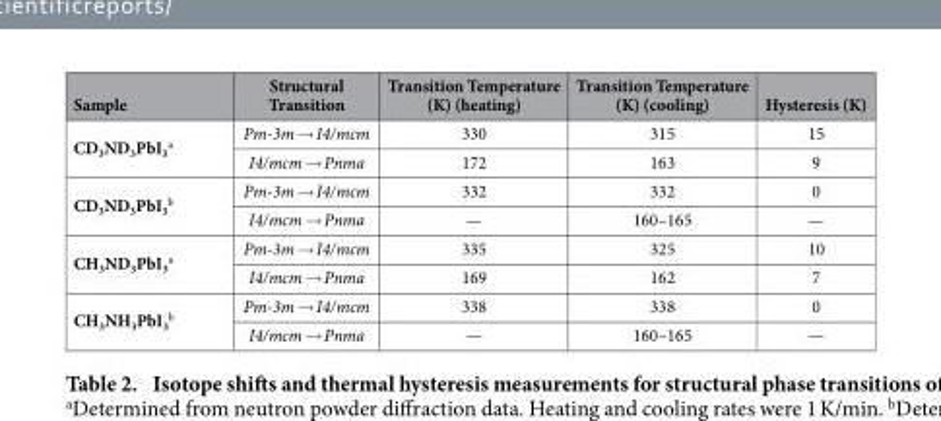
<table><thead><tr><td>Sample</td><td>Structural Transition</td><td>Transition Temperature (K) (heating)</td><td>Transition Temperature (K) (cooling)</td><td>Hysteresis (K)</td></tr></thead><tbody><tr><td rowspan="2">CD<sub>3</sub>ND<sub>3</sub>PbI<sub>3</sub> <sup>a</sup></td><td>Pm-3m → I4/mcm</td><td>330</td><td>315</td><td>15</td></tr><tr><td>I4/mcm → Pnma</td><td>172</td><td>163</td><td>9</td></tr><tr><td rowspan="2">CD<sub>3</sub>ND<sub>3</sub>PbI<sub>3</sub> <sup>b</sup></td><td>Pm-3m → I4/mcm</td><td>332</td><td>332</td><td>0</td></tr><tr><td>I4/mcm → Pnma</td><td>—</td><td>160–165</td><td>—</td></tr><tr><td rowspan="2">CH<sub>3</sub>ND<sub>3</sub>PbI<sub>3</sub> <sup>a</sup></td><td>Pm-3m → I4/mcm</td><td>335</td><td>325</td><td>10</td></tr><tr><td>I4/mcm → Pnma</td><td>169</td><td>162</td><td>7</td></tr><tr><td rowspan="2">CH<sub>3</sub>NH<sub>3</sub>PbI<sub>3</sub> <sup>b</sup></td><td>Pm-3m → I4/mcm</td><td>338</td><td>338</td><td>0</td></tr><tr><td>I4/mcm → Pnma</td><td>—</td><td>160–165</td><td>—</td></tr></tbody></table>